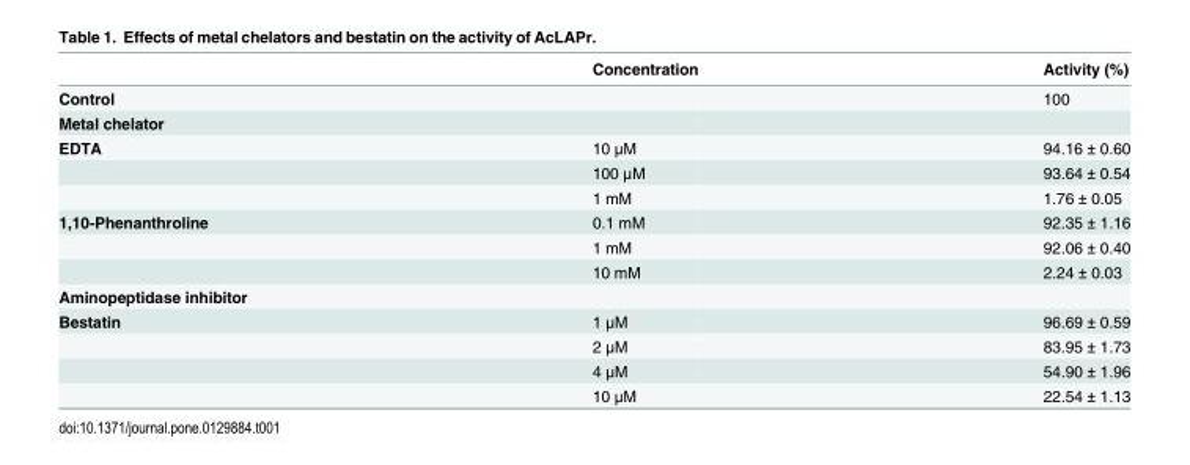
<table><thead><tr><td></td><td>Concentration</td><td>Activity (%)</td></tr></thead><tbody><tr><td>Control</td><td></td><td>100</td></tr><tr><td colspan="3">Metal chelator</td></tr><tr><td rowspan="3">EDTA</td><td>10 μM</td><td>94.16 ± 0.60</td></tr><tr><td>100 μM</td><td>93.64 ± 0.54</td></tr><tr><td>1 mM</td><td>1.76 ± 0.05</td></tr><tr><td rowspan="3">1,10-Phenanthroline</td><td>0.1 mM</td><td>92.35 ± 1.16</td></tr><tr><td>1 mM</td><td>92.06 ± 0.40</td></tr><tr><td>10 mM</td><td>2.24 ± 0.03</td></tr><tr><td colspan="3">Aminopeptidase inhibitor</td></tr><tr><td rowspan="4">Bestatin</td><td>1 μM</td><td>96.69 ± 0.59</td></tr><tr><td>2 μM</td><td>83.95 ± 1.73</td></tr><tr><td>4 μM</td><td>54.90 ± 1.96</td></tr><tr><td>10 μM</td><td>22.54 ± 1.13</td></tr></tbody></table>